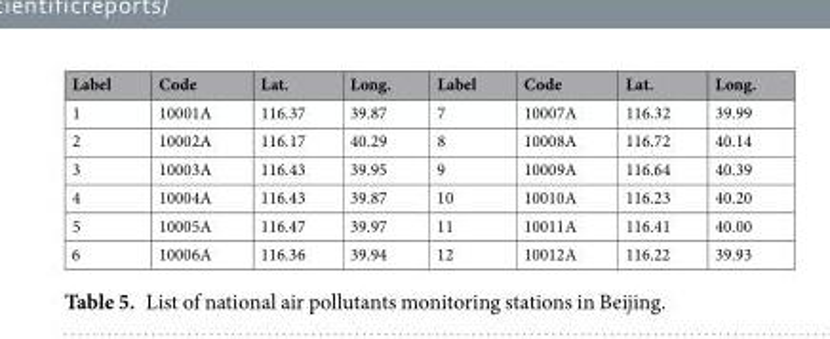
<table><thead><tr><td>Label</td><td>Code</td><td>Lat.</td><td>Long.</td><td>Label</td><td>Code</td><td>Lat.</td><td>Long.</td></tr></thead><tbody><tr><td>1</td><td>10001A</td><td>116.37</td><td>39.87</td><td>7</td><td>10007A</td><td>116.32</td><td>39.99</td></tr><tr><td>2</td><td>10002A</td><td>116.17</td><td>40.29</td><td>8</td><td>10008A</td><td>116.72</td><td>40.14</td></tr><tr><td>3</td><td>10003A</td><td>116.43</td><td>39.95</td><td>9</td><td>10009A</td><td>116.64</td><td>40.39</td></tr><tr><td>4</td><td>10004A</td><td>116.43</td><td>39.87</td><td>10</td><td>10010A</td><td>116.23</td><td>40.20</td></tr><tr><td>5</td><td>10005A</td><td>116.47</td><td>39.97</td><td>11</td><td>10011A</td><td>116.41</td><td>40.00</td></tr><tr><td>6</td><td>10006A</td><td>116.36</td><td>39.94</td><td>12</td><td>10012A</td><td>116.22</td><td>39.93</td></tr></tbody></table>